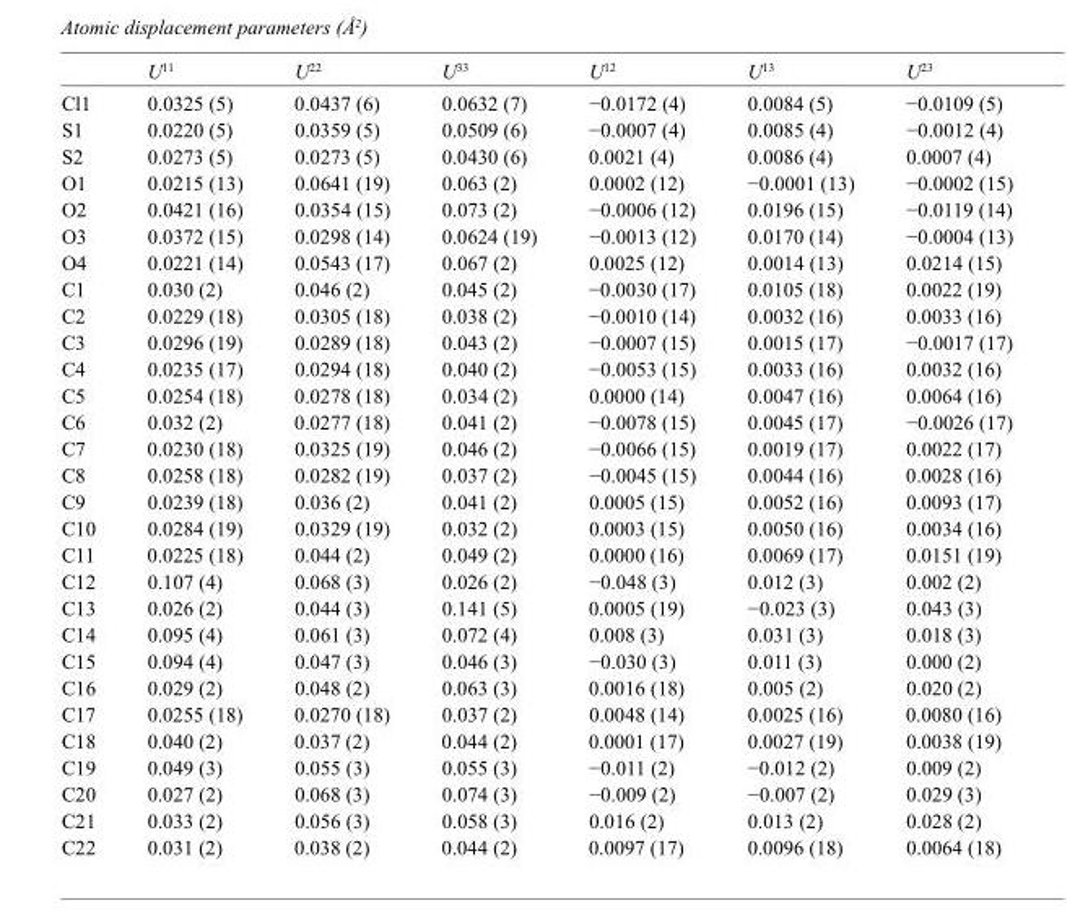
<table><thead><tr><td></td><td>U<sup>11</sup></td><td>U<sup>22</sup></td><td>U<sup>33</sup></td><td>U<sup>12</sup></td><td>U<sup>13</sup></td><td>U<sup>23</sup></td></tr></thead><tbody><tr><td>Cl1</td><td>0.0325 (5)</td><td>0.0437 (6)</td><td>0.0632 (7)</td><td>−0.0172 (4)</td><td>0.0084 (5)</td><td>−0.0109 (5)</td></tr><tr><td>S1</td><td>0.0220 (5)</td><td>0.0359 (5)</td><td>0.0509 (6)</td><td>−0.0007 (4)</td><td>0.0085 (4)</td><td>−0.0012 (4)</td></tr><tr><td>S2</td><td>0.0273 (5)</td><td>0.0273 (5)</td><td>0.0430 (6)</td><td>0.0021 (4)</td><td>0.0086 (4)</td><td>0.0007 (4)</td></tr><tr><td>O1</td><td>0.0215 (13)</td><td>0.0641 (19)</td><td>0.063 (2)</td><td>0.0002 (12)</td><td>−0.0001 (13)</td><td>−0.0002 (15)</td></tr><tr><td>O2</td><td>0.0421 (16)</td><td>0.0354 (15)</td><td>0.073 (2)</td><td>−0.0006 (12)</td><td>0.0196 (15)</td><td>−0.0119 (14)</td></tr><tr><td>O3</td><td>0.0372 (15)</td><td>0.0298 (14)</td><td>0.0624 (19)</td><td>−0.0013 (12)</td><td>0.0170 (14)</td><td>−0.0004 (13)</td></tr><tr><td>O4</td><td>0.0221 (14)</td><td>0.0543 (17)</td><td>0.067 (2)</td><td>0.0025 (12)</td><td>0.0014 (13)</td><td>0.0214 (15)</td></tr><tr><td>C1</td><td>0.030 (2)</td><td>0.046 (2)</td><td>0.045 (2)</td><td>−0.0030 (17)</td><td>0.0105 (18)</td><td>0.0022 (19)</td></tr><tr><td>C2</td><td>0.0229 (18)</td><td>0.0305 (18)</td><td>0.038 (2)</td><td>−0.0010 (14)</td><td>0.0032 (16)</td><td>0.0033 (16)</td></tr><tr><td>C3</td><td>0.0296 (19)</td><td>0.0289 (18)</td><td>0.043 (2)</td><td>−0.0007 (15)</td><td>0.0015 (17)</td><td>−0.0017 (17)</td></tr><tr><td>C4</td><td>0.0235 (17)</td><td>0.0294 (18)</td><td>0.040 (2)</td><td>−0.0053 (15)</td><td>0.0033 (16)</td><td>0.0032 (16)</td></tr><tr><td>C5</td><td>0.0254 (18)</td><td>0.0278 (18)</td><td>0.034 (2)</td><td>0.0000 (14)</td><td>0.0047 (16)</td><td>0.0064 (16)</td></tr><tr><td>C6</td><td>0.032 (2)</td><td>0.0277 (18)</td><td>0.041 (2)</td><td>−0.0078 (15)</td><td>0.0045 (17)</td><td>−0.0026 (17)</td></tr><tr><td>C7</td><td>0.0230 (18)</td><td>0.0325 (19)</td><td>0.046 (2)</td><td>−0.0066 (15)</td><td>0.0019 (17)</td><td>0.0022 (17)</td></tr><tr><td>C8</td><td>0.0258 (18)</td><td>0.0282 (19)</td><td>0.037 (2)</td><td>−0.0045 (15)</td><td>0.0044 (16)</td><td>0.0028 (16)</td></tr><tr><td>C9</td><td>0.0239 (18)</td><td>0.036 (2)</td><td>0.041 (2)</td><td>0.0005 (15)</td><td>0.0052 (16)</td><td>0.0093 (17)</td></tr><tr><td>C10</td><td>0.0284 (19)</td><td>0.0329 (19)</td><td>0.032 (2)</td><td>0.0003 (15)</td><td>0.0050 (16)</td><td>0.0034 (16)</td></tr><tr><td>C11</td><td>0.0225 (18)</td><td>0.044 (2)</td><td>0.049 (2)</td><td>0.0000 (16)</td><td>0.0069 (17)</td><td>0.0151 (19)</td></tr><tr><td>C12</td><td>0.107 (4)</td><td>0.068 (3)</td><td>0.026 (2)</td><td>−0.048 (3)</td><td>0.012 (3)</td><td>0.002 (2)</td></tr><tr><td>C13</td><td>0.026 (2)</td><td>0.044 (3)</td><td>0.141 (5)</td><td>0.0005 (19)</td><td>−0.023 (3)</td><td>0.043 (3)</td></tr><tr><td>C14</td><td>0.095 (4)</td><td>0.061 (3)</td><td>0.072 (4)</td><td>0.008 (3)</td><td>0.031 (3)</td><td>0.018 (3)</td></tr><tr><td>C15</td><td>0.094 (4)</td><td>0.047 (3)</td><td>0.046 (3)</td><td>−0.030 (3)</td><td>0.011 (3)</td><td>0.000 (2)</td></tr><tr><td>C16</td><td>0.029 (2)</td><td>0.048 (2)</td><td>0.063 (3)</td><td>0.0016 (18)</td><td>0.005 (2)</td><td>0.020 (2)</td></tr><tr><td>C17</td><td>0.0255 (18)</td><td>0.0270 (18)</td><td>0.037 (2)</td><td>0.0048 (14)</td><td>0.0025 (16)</td><td>0.0080 (16)</td></tr><tr><td>C18</td><td>0.040 (2)</td><td>0.037 (2)</td><td>0.044 (2)</td><td>0.0001 (17)</td><td>0.0027 (19)</td><td>0.0038 (19)</td></tr><tr><td>C19</td><td>0.049 (3)</td><td>0.055 (3)</td><td>0.055 (3)</td><td>−0.011 (2)</td><td>−0.012 (2)</td><td>0.009 (2)</td></tr><tr><td>C20</td><td>0.027 (2)</td><td>0.068 (3)</td><td>0.074 (3)</td><td>−0.009 (2)</td><td>−0.007 (2)</td><td>0.029 (3)</td></tr><tr><td>C21</td><td>0.033 (2)</td><td>0.056 (3)</td><td>0.058 (3)</td><td>0.016 (2)</td><td>0.013 (2)</td><td>0.028 (2)</td></tr><tr><td>C22</td><td>0.031 (2)</td><td>0.038 (2)</td><td>0.044 (2)</td><td>0.0097 (17)</td><td>0.0096 (18)</td><td>0.0064 (18)</td></tr></tbody></table>